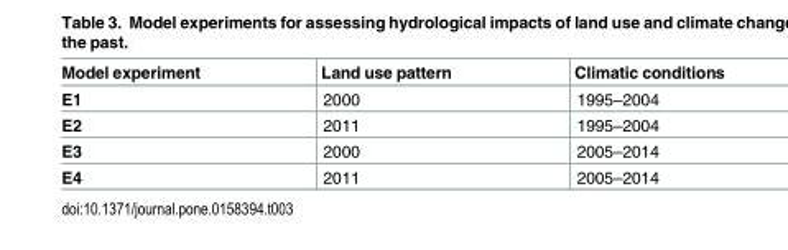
<table><thead><tr><td>Model experiment</td><td>Land use pattern</td><td>Climatic conditions</td></tr></thead><tbody><tr><td>E1</td><td>2000</td><td>1995–2004</td></tr><tr><td>E2</td><td>2011</td><td>1995–2004</td></tr><tr><td>E3</td><td>2000</td><td>2005–2014</td></tr><tr><td>E4</td><td>2011</td><td>2005–2014</td></tr></tbody></table>